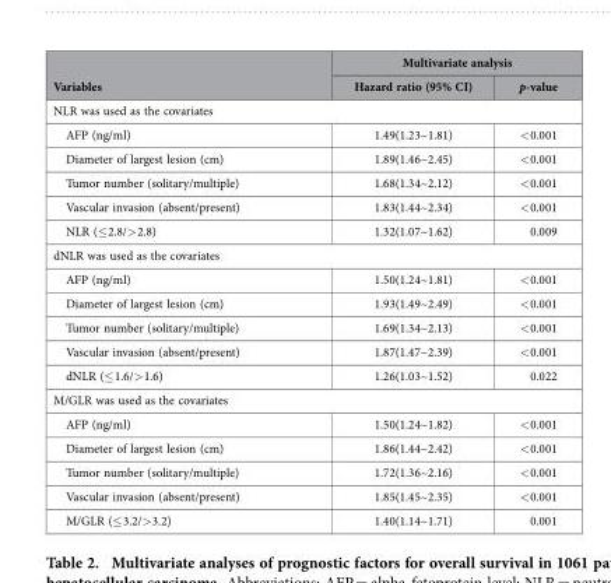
<table><thead><tr><td rowspan="2">Variables</td><td colspan="2">Multivariate analysis</td></tr><tr><td>Hazard ratio (95% CI)</td><td>p-value</td></tr></thead><tbody><tr><td colspan="3">NLR was used as the covariates</td></tr><tr><td>AFP (ng/ml)</td><td>1.49(1.23~1.81)</td><td>&lt; 0.001</td></tr><tr><td>Diameter of largest lesion (cm)</td><td>1.89(1.46~2.45)</td><td>&lt; 0.001</td></tr><tr><td>Tumor number (solitary/multiple)</td><td>1.68(1.34~2.12)</td><td>&lt; 0.001</td></tr><tr><td>Vascular invasion (absent/present)</td><td>1.83(1.44~2.34)</td><td>&lt; 0.001</td></tr><tr><td>NLR (≤ 2.8/&gt; 2.8)</td><td>1.32(1.07~1.62)</td><td>0.009</td></tr><tr><td colspan="3">dNLR was used as the covariates</td></tr><tr><td>AFP (ng/ml)</td><td>1.50(1.24~1.81)</td><td>&lt; 0.001</td></tr><tr><td>Diameter of largest lesion (cm)</td><td>1.93(1.49~2.49)</td><td>&lt; 0.001</td></tr><tr><td>Tumor number (solitary/multiple)</td><td>1.69(1.34~2.13)</td><td>&lt; 0.001</td></tr><tr><td>Vascular invasion (absent/present)</td><td>1.87(1.47~2.39)</td><td>&lt; 0.001</td></tr><tr><td>dNLR (≤ 1.6/&gt; 1.6)</td><td>1.26(1.03~1.52)</td><td>0.022</td></tr><tr><td colspan="3">M/GLR was used as the covariates</td></tr><tr><td>AFP (ng/ml)</td><td>1.50(1.24~1.82)</td><td>&lt; 0.001</td></tr><tr><td>Diameter of largest lesion (cm)</td><td>1.86(1.44~2.42)</td><td>&lt; 0.001</td></tr><tr><td>Tumor number (solitary/multiple)</td><td>1.72(1.36~2.16)</td><td>&lt; 0.001</td></tr><tr><td>Vascular invasion (absent/present)</td><td>1.85(1.45~2.35)</td><td>&lt; 0.001</td></tr><tr><td>M/GLR (≤ 3.2/&gt; 3.2)</td><td>1.40(1.14~1.71)</td><td>0.001</td></tr></tbody></table>